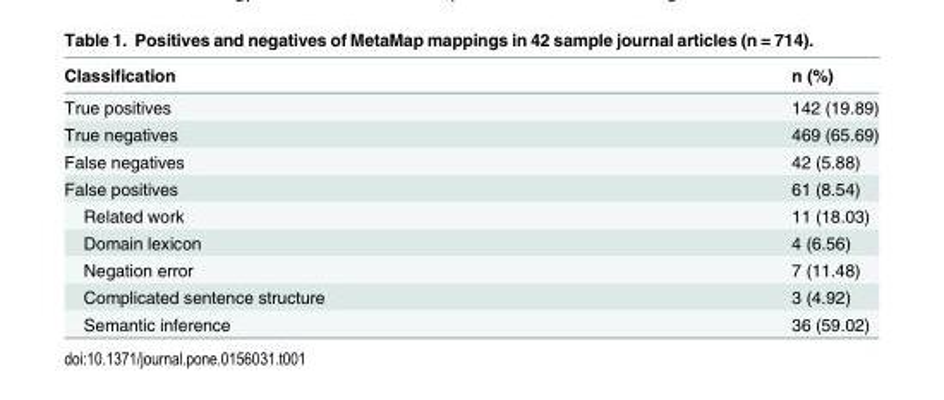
<table><thead><tr><td>Classification</td><td>n (%)</td></tr></thead><tbody><tr><td>True positives</td><td>142 (19.89)</td></tr><tr><td>True negatives</td><td>469 (65.69)</td></tr><tr><td>False negatives</td><td>42 (5.88)</td></tr><tr><td>False positives</td><td>61 (8.54)</td></tr><tr><td>Related work</td><td>11 (18.03)</td></tr><tr><td>Domain lexicon</td><td>4 (6.56)</td></tr><tr><td>Negation error</td><td>7 (11.48)</td></tr><tr><td>Complicated sentence structure</td><td>3 (4.92)</td></tr><tr><td>Semantic inference</td><td>36 (59.02)</td></tr></tbody></table>